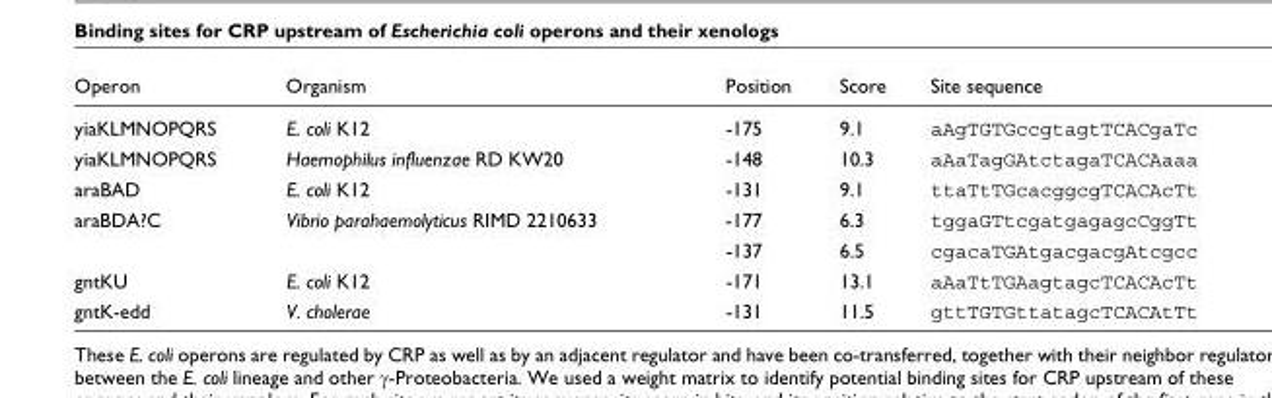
<table><thead><tr><td>Operon</td><td>Organism</td><td>Position</td><td>Score</td><td>Site sequence</td></tr></thead><tbody><tr><td>yiaKLMNOPQRS</td><td>E. coli K12</td><td>-175</td><td>9.1</td><td>aAgTGTGccgtagtTCACgaTc</td></tr><tr><td>yiaKLMNOPQRS</td><td>Haemophilus influenzae RD KW20</td><td>-148</td><td>10.3</td><td>aAaTagGAtctagaTCACAaaa</td></tr><tr><td>araBAD</td><td>E. coli K12</td><td>-131</td><td>9.1</td><td>ttaTtTGcacggcgTCACAcTt</td></tr><tr><td rowspan="2">araBDA?C</td><td>Vibrio parahaemolyticus RIMD 2210633</td><td>-177</td><td>6.3</td><td>tggaGTtcgatgagagcCggTt</td></tr><tr><td></td><td>-137</td><td>6.5</td><td>cgacaTGAtgacgacgAtcgcc</td></tr><tr><td>gntKU</td><td>E. coli K12</td><td>-171</td><td>13.1</td><td>aAaTtTGAagtagcTCACAcTt</td></tr><tr><td>gntK-edd</td><td>V. cholerae</td><td>-131</td><td>11.5</td><td>gttTGTGttatagcTCACAtTt</td></tr></tbody></table>